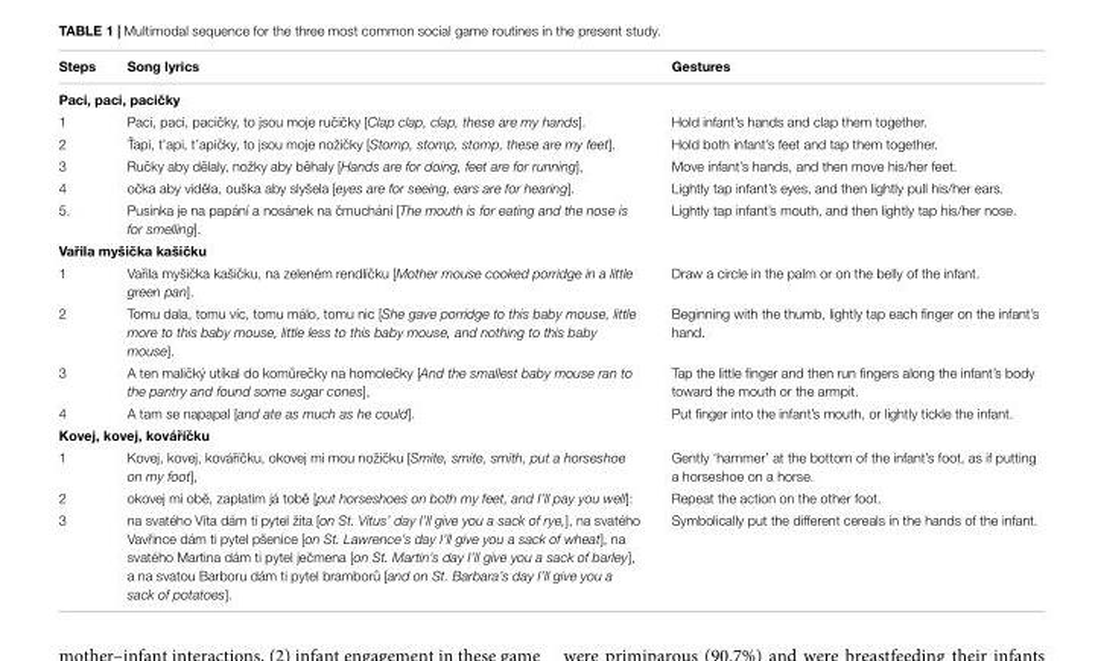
<table><thead><tr><td>Steps</td><td>Song lyrics</td><td>Gestures</td></tr></thead><tbody><tr><td colspan="3">Paci, paci, paci ˇcky</td></tr><tr><td>1</td><td>Paci, paci, paci ˇcky, to jsou moje ru ˇci ˇcky [Clap clap, clap, these are my hands].</td><td>Hold infant’s hands and clap them together.</td></tr><tr><td>2</td><td>ˇTapi, t’api, t’api ˇcky, to jsou moje noži ˇcky [Stomp, stomp, stomp, these are my feet].</td><td>Hold both infant’s feet and tap them together.</td></tr><tr><td>3</td><td>Ru ˇcky aby d ˇelaly, nožky aby b ˇehaly [Hands are for doing, feet are for running],</td><td>Move infant’s hands, and then move his/her feet.</td></tr><tr><td>4</td><td>o ˇcka aby vid ˇela, ouška aby slyšela [eyes are for seeing, ears are for hearing].</td><td>Lightly tap infant’s eyes, and then lightly pull his/her ears.</td></tr><tr><td>5.</td><td>Pusinka je na papání a nosánek na ˇcmuchání [The mouth is for eating and the nose is for smelling].</td><td>Lightly tap infant’s mouth, and then lightly tap his/her nose.</td></tr><tr><td colspan="3">Vaˇrila myši ˇcka kaši ˇcku</td></tr><tr><td>1</td><td>Vaˇrila myši ˇcka kaši ˇcku, na zeleném rendlí ˇcku [Mother mouse cooked porridge in a little green pan].</td><td>Draw a circle in the palm or on the belly of the infant.</td></tr><tr><td>2</td><td>Tomu dala, tomu víc, tomu málo, tomu nic [She gave porridge to this baby mouse, little more to this baby mouse, little less to this baby mouse, and nothing to this baby mouse].</td><td>Beginning with the thumb, lightly tap each finger on the infant’s hand.</td></tr><tr><td>3</td><td>A ten mali ˇcký utíkal do kom ˚ure ˇcky na homole ˇcky [And the smallest baby mouse ran to the pantry and found some sugar cones],</td><td>Tap the little finger and then run fingers along the infant’s body toward the mouth or the armpit.</td></tr><tr><td>4</td><td>A tam se napapal [and ate as much as he could].</td><td>Put finger into the infant’s mouth, or lightly tickle the infant.</td></tr><tr><td colspan="3">Kovej, kovej, kováˇrí ˇcku</td></tr><tr><td>1</td><td>Kovej, kovej, kováˇrí ˇcku, okovej mi mou noži ˇcku [Smite, smite, smith, put a horseshoe on my foot],</td><td>Gently ‘hammer’ at the bottom of the infant’s foot, as if putting a horseshoe on a horse.</td></tr><tr><td>2</td><td>okovej mi ob ˇe, zaplatím já tob ˇe [put horseshoes on both my feet, and I’ll pay you well]:</td><td>Repeat the action on the other foot.</td></tr><tr><td>3</td><td>na svatého Víta dám ti pytel žita [on St. Vitus’ day I’ll give you a sack of rye,], na svatého Vavˇrince dám ti pytel pšenice [on St. Lawrence’s day I’ll give you a sack of wheat], na svatého Martina dám ti pytel je ˇcmena [on St. Martin’s day I’ll give you a sack of barley], a na svatou Barboru dám ti pytel brambor ˚u [and on St. Barbara’s day I’ll give you a sack of potatoes].</td><td>Symbolically put the different cereals in the hands of the infant.</td></tr></tbody></table>